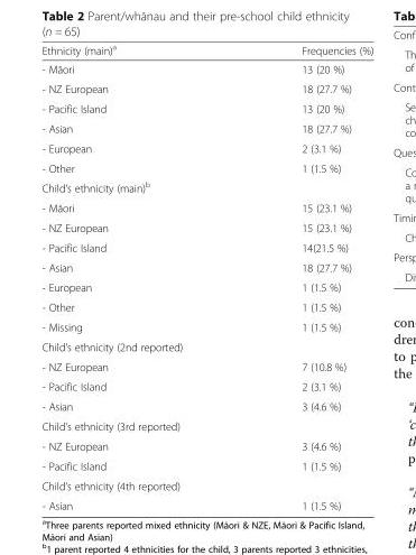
<table><thead><tr><td>Ethnicity (main)<sup>a</sup></td><td>Frequencies (%)</td></tr></thead><tbody><tr><td>- Māori</td><td>13 (20 %)</td></tr><tr><td>- NZ European</td><td>18 (27.7 %)</td></tr><tr><td>- Pacific Island</td><td>13 (20 %)</td></tr><tr><td>- Asian</td><td>18 (27.7 %)</td></tr><tr><td>- European</td><td>2 (3.1 %)</td></tr><tr><td>- Other</td><td>1 (1.5 %)</td></tr><tr><td colspan="2">Child’s ethnicity (main)<sup>b</sup></td></tr><tr><td>- Māori</td><td>15 (23.1 %)</td></tr><tr><td>- NZ European</td><td>15 (23.1 %)</td></tr><tr><td>- Pacific Island</td><td>14(21.5 %)</td></tr><tr><td>- Asian</td><td>18 (27.7 %)</td></tr><tr><td>- European</td><td>1 (1.5 %)</td></tr><tr><td>- Other</td><td>1 (1.5 %)</td></tr><tr><td>- Missing</td><td>1 (1.5 %)</td></tr><tr><td colspan="2">Child’s ethnicity (2nd reported)</td></tr><tr><td>- NZ European</td><td>7 (10.8 %)</td></tr><tr><td>- Pacific Island</td><td>2 (3.1 %)</td></tr><tr><td>- Asian</td><td>3 (4.6 %)</td></tr><tr><td colspan="2">Child’s ethnicity (3rd reported)</td></tr><tr><td>- NZ European</td><td>3 (4.6 %)</td></tr><tr><td>- Pacific Island</td><td>1 (1.5 %)</td></tr><tr><td colspan="2">Child’s ethnicity (4th reported)</td></tr><tr><td>- Asian</td><td>1 (1.5 %)</td></tr></tbody></table>